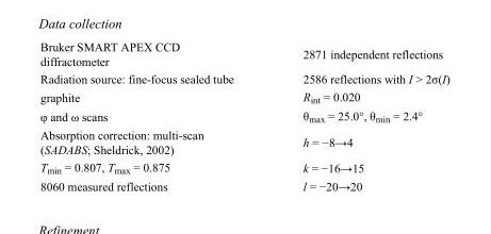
<table><tbody><tr><td>Bruker SMART APEX CCD diffractometer</td><td>2871 independent reflections</td></tr><tr><td>Radiation source: fine-focus sealed tube</td><td>2586 reflections with I &gt; 2σ(I)</td></tr><tr><td>graphite</td><td>R<sub>int</sub> = 0.020</td></tr><tr><td>φ and ω scans</td><td>θ<sub>max</sub> = 25.0°, θ<sub>min</sub> = 2.4°</td></tr><tr><td>Absorption correction: multi-scan (SADABS; Sheldrick, 2002)</td><td>h = −8→4</td></tr><tr><td>T<sub>min</sub> = 0.807, T<sub>max</sub> = 0.875</td><td>k = −16→15</td></tr><tr><td>8060 measured reflections</td><td>l = −20→20</td></tr></tbody></table>